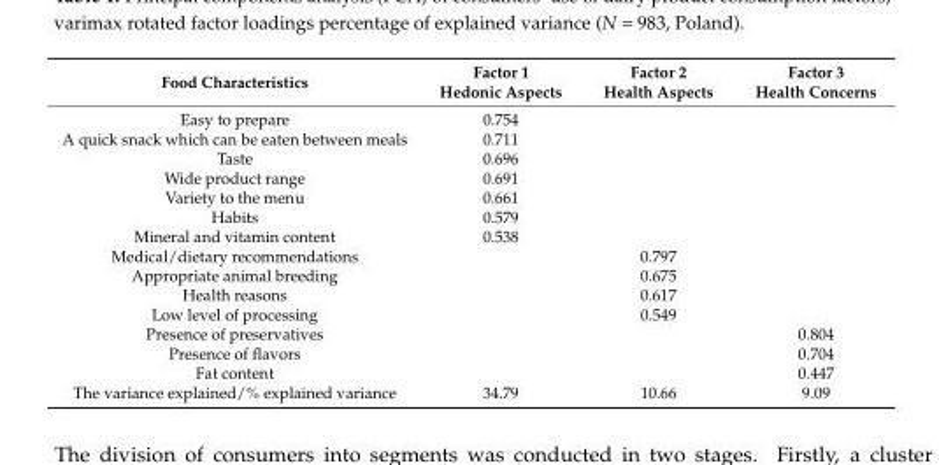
<table><thead><tr><td>Food Characteristics</td><td>Factor 1 Hedonic Aspects</td><td>Factor 2 Health Aspects</td><td>Factor 3 Health Concerns</td></tr></thead><tbody><tr><td>Easy to prepare</td><td>0.754</td><td></td><td></td></tr><tr><td>A quick snack which can be eaten between meals</td><td>0.711</td><td></td><td></td></tr><tr><td>Taste</td><td>0.696</td><td></td><td></td></tr><tr><td>Wide product range</td><td>0.691</td><td></td><td></td></tr><tr><td>Variety to the menu</td><td>0.661</td><td></td><td></td></tr><tr><td>Habits</td><td>0.579</td><td></td><td></td></tr><tr><td>Mineral and vitamin content</td><td>0.538</td><td></td><td></td></tr><tr><td>Medical/dietary recommendations</td><td></td><td>0.797</td><td></td></tr><tr><td>Appropriate animal breeding</td><td></td><td>0.675</td><td></td></tr><tr><td>Health reasons</td><td></td><td>0.617</td><td></td></tr><tr><td>Low level of processing</td><td></td><td>0.549</td><td></td></tr><tr><td>Presence of preservatives</td><td></td><td></td><td>0.804</td></tr><tr><td>Presence of flavors</td><td></td><td></td><td>0.704</td></tr><tr><td>Fat content</td><td></td><td></td><td>0.447</td></tr><tr><td>The variance explained/% explained variance</td><td>34.79</td><td>10.66</td><td>9.09</td></tr></tbody></table>